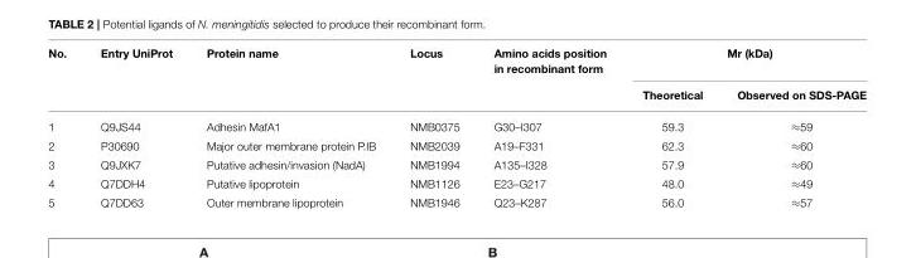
<table><thead><tr><td rowspan="2">No.</td><td rowspan="2">Entry UniProt</td><td rowspan="2">Protein name</td><td rowspan="2">Locus</td><td rowspan="2">Amino acids position in recombinant form</td><td colspan="2">Mr (kDa)</td></tr><tr><td>Theoretical</td><td>Observed on SDS-PAGE</td></tr></thead><tbody><tr><td>1</td><td>Q9JS44</td><td>Adhesin MafA1</td><td>NMB0375</td><td>G30–I307</td><td>59.3</td><td>≈59</td></tr><tr><td>2</td><td>P30690</td><td>Major outer membrane protein P.IB</td><td>NMB2039</td><td>A19–F331</td><td>62.3</td><td>≈60</td></tr><tr><td>3</td><td>Q9JXK7</td><td>Putative adhesin/invasion (NadA)</td><td>NMB1994</td><td>A135–I328</td><td>57.9</td><td>≈60</td></tr><tr><td>4</td><td>Q7DDH4</td><td>Putative lipoprotein</td><td>NMB1126</td><td>E23–G217</td><td>48.0</td><td>≈49</td></tr><tr><td>5</td><td>Q7DD63</td><td>Outer membrane lipoprotein</td><td>NMB1946</td><td>Q23–K287</td><td>56.0</td><td>≈57</td></tr></tbody></table>